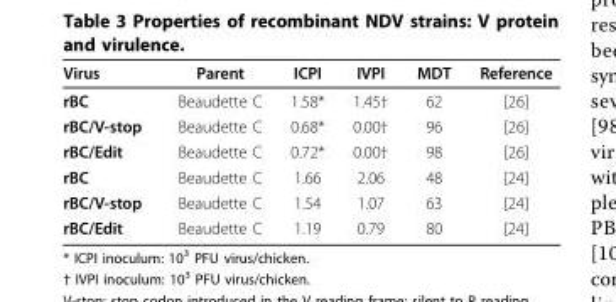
<table><thead><tr><td>Virus</td><td>Parent</td><td>ICPI</td><td>IVPI</td><td>MDT</td><td>Reference</td></tr></thead><tbody><tr><td>rBC</td><td>Beaudette C</td><td>1.58*</td><td>1.45†</td><td>62</td><td>[26]</td></tr><tr><td>rBC/V-stop</td><td>Beaudette C</td><td>0.68*</td><td>0.00†</td><td>96</td><td>[26]</td></tr><tr><td>rBC/Edit</td><td>Beaudette C</td><td>0.72*</td><td>0.00†</td><td>98</td><td>[26]</td></tr><tr><td>rBC</td><td>Beaudette C</td><td>1.66</td><td>2.06</td><td>48</td><td>[24]</td></tr><tr><td>rBC/V-stop</td><td>Beaudette C</td><td>1.54</td><td>1.07</td><td>63</td><td>[24]</td></tr><tr><td>rBC/Edit</td><td>Beaudette C</td><td>1.19</td><td>0.79</td><td>80</td><td>[24]</td></tr></tbody></table>